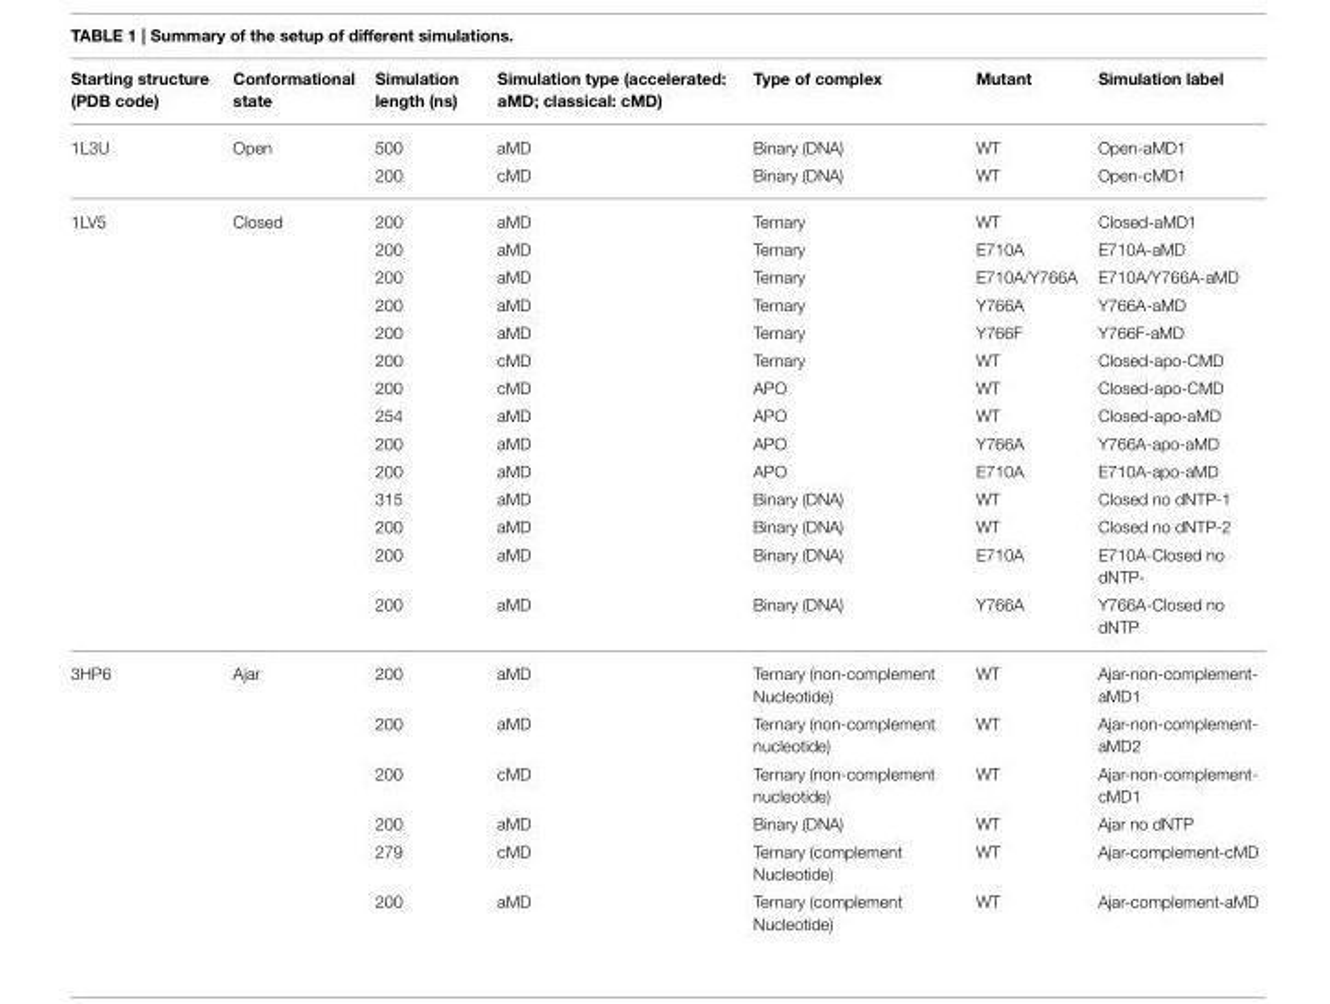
<table><thead><tr><td>Starting structure (PDB code)</td><td>Conformational state</td><td>Simulation length (ns)</td><td>Simulation type (accelerated: aMD; classical: cMD)</td><td>Type of complex</td><td>Mutant</td><td>Simulation label</td></tr></thead><tbody><tr><td rowspan="2">1L3U</td><td>Open</td><td>500</td><td>aMD</td><td>Binary (DNA)</td><td>WT</td><td>Open-aMD1</td></tr><tr><td></td><td>200</td><td>cMD</td><td>Binary (DNA)</td><td>WT</td><td>Open-cMD1</td></tr><tr><td rowspan="14">1LV5</td><td>Closed</td><td>200</td><td>aMD</td><td>Ternary</td><td>WT</td><td>Closed-aMD1</td></tr><tr><td></td><td>200</td><td>aMD</td><td>Ternary</td><td>E710A</td><td>E710A-aMD</td></tr><tr><td></td><td>200</td><td>aMD</td><td>Ternary</td><td>E710A/Y766A</td><td>E710A/Y766A-aMD</td></tr><tr><td></td><td>200</td><td>aMD</td><td>Ternary</td><td>Y766A</td><td>Y766A-aMD</td></tr><tr><td></td><td>200</td><td>aMD</td><td>Ternary</td><td>Y766F</td><td>Y766F-aMD</td></tr><tr><td></td><td>200</td><td>cMD</td><td>Ternary</td><td>WT</td><td>Closed-apo-CMD</td></tr><tr><td></td><td>200</td><td>cMD</td><td>APO</td><td>WT</td><td>Closed-apo-CMD</td></tr><tr><td></td><td>254</td><td>aMD</td><td>APO</td><td>WT</td><td>Closed-apo-aMD</td></tr><tr><td></td><td>200</td><td>aMD</td><td>APO</td><td>Y766A</td><td>Y766A-apo-aMD</td></tr><tr><td></td><td>200</td><td>aMD</td><td>APO</td><td>E710A</td><td>E710A-apo-aMD</td></tr><tr><td></td><td>315</td><td>aMD</td><td>Binary (DNA)</td><td>WT</td><td>Closed no dNTP-1</td></tr><tr><td></td><td>200</td><td>aMD</td><td>Binary (DNA)</td><td>WT</td><td>Closed no dNTP-2</td></tr><tr><td></td><td>200</td><td>aMD</td><td>Binary (DNA)</td><td>E710A</td><td>E710A-Closed no dNTP-</td></tr><tr><td></td><td>200</td><td>aMD</td><td>Binary (DNA)</td><td>Y766A</td><td>Y766A-Closed no dNTP</td></tr><tr><td rowspan="6">3HP6</td><td>Ajar</td><td>200</td><td>aMD</td><td>Ternary (non-complement Nucleotide)</td><td>WT</td><td>Ajar-non-complement- aMD1</td></tr><tr><td></td><td>200</td><td>aMD</td><td>Ternary (non-complement nucleotide)</td><td>WT</td><td>Ajar-non-complement- aMD2</td></tr><tr><td></td><td>200</td><td>cMD</td><td>Ternary (non-complement nucleotide)</td><td>WT</td><td>Ajar-non-complement- cMD1</td></tr><tr><td></td><td>200</td><td>aMD</td><td>Binary (DNA)</td><td>WT</td><td>Ajar no dNTP</td></tr><tr><td></td><td>279</td><td>cMD</td><td>Ternary (complement Nucleotide)</td><td>WT</td><td>Ajar-complement-cMD</td></tr><tr><td></td><td>200</td><td>aMD</td><td>Ternary (complement Nucleotide)</td><td>WT</td><td>Ajar-complement-aMD</td></tr></tbody></table>